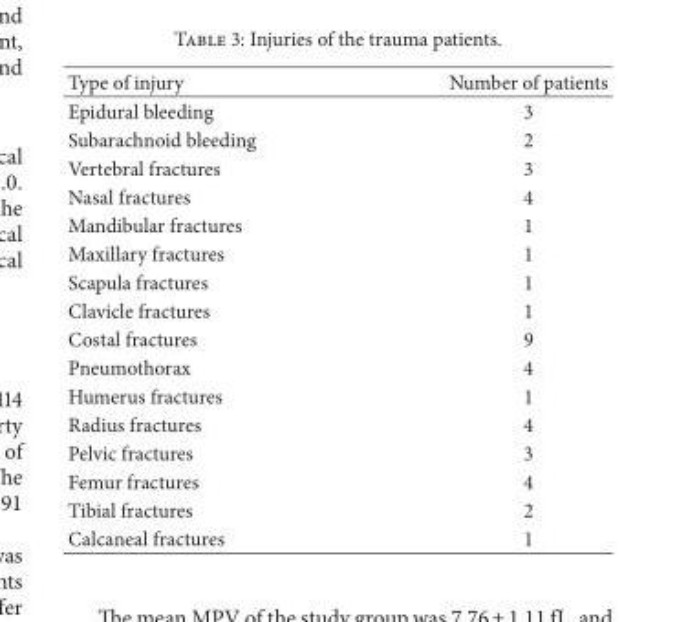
<table><thead><tr><td>Type of injury</td><td>Number of patients</td></tr></thead><tbody><tr><td>Epidural bleeding</td><td>3</td></tr><tr><td>Subarachnoid bleeding</td><td>2</td></tr><tr><td>Vertebral fractures</td><td>3</td></tr><tr><td>Nasal fractures</td><td>4</td></tr><tr><td>Mandibular fractures</td><td>1</td></tr><tr><td>Maxillary fractures</td><td>1</td></tr><tr><td>Scapula fractures</td><td>1</td></tr><tr><td>Clavicle fractures</td><td>1</td></tr><tr><td>Costal fractures</td><td>9</td></tr><tr><td>Pneumothorax</td><td>4</td></tr><tr><td>Humerus fractures</td><td>1</td></tr><tr><td>Radius fractures</td><td>4</td></tr><tr><td>Pelvic fractures</td><td>3</td></tr><tr><td>Femur fractures</td><td>4</td></tr><tr><td>Tibial fractures</td><td>2</td></tr><tr><td>Calcaneal fractures</td><td>1</td></tr></tbody></table>